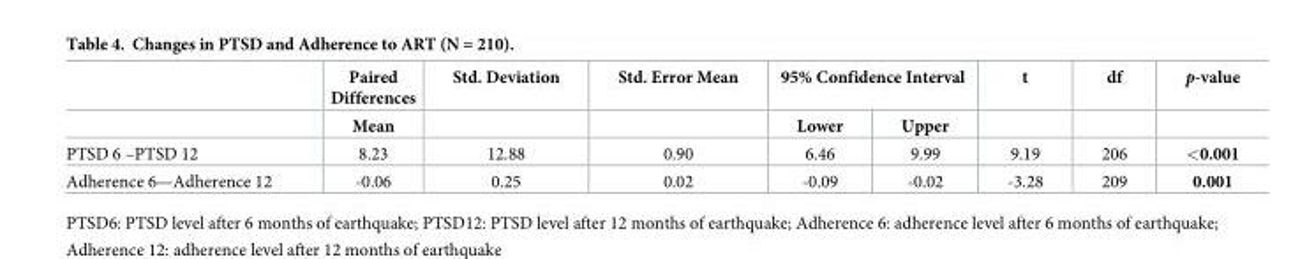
<table><thead><tr><td rowspan="2"></td><td rowspan="2">Paired Differences Mean</td><td rowspan="2">Std. Deviation</td><td rowspan="2">Std. Error Mean</td><td colspan="2">95% Confidence Interval</td><td rowspan="2">t</td><td rowspan="2">df</td><td rowspan="2">p-value</td></tr><tr><td>Lower</td><td>Upper</td></tr></thead><tbody><tr><td>PTSD 6 –PTSD 12</td><td>8.23</td><td>12.88</td><td>0.90</td><td>6.46</td><td>9.99</td><td>9.19</td><td>206</td><td>&lt;0.001</td></tr><tr><td>Adherence 6—Adherence 12</td><td>-0.06</td><td>0.25</td><td>0.02</td><td>-0.09</td><td>-0.02</td><td>-3.28</td><td>209</td><td>0.001</td></tr></tbody></table>